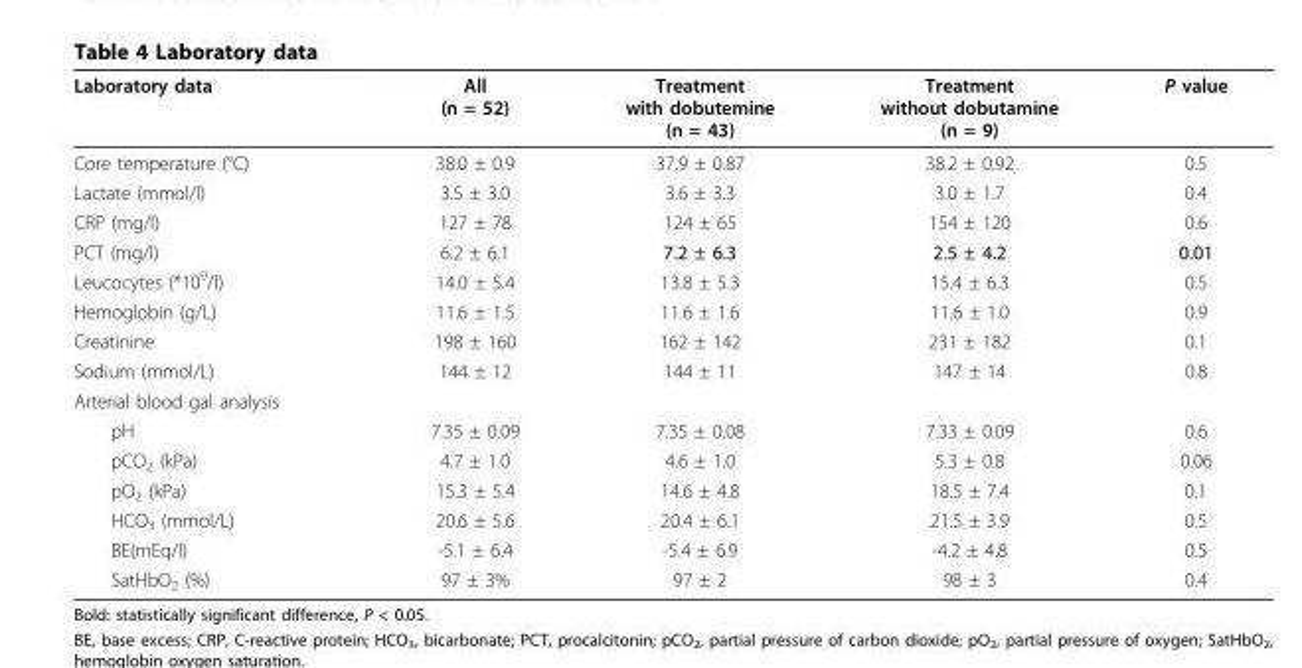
<table><thead><tr><td>Laboratory data</td><td>All (n = 52)</td><td>Treatment with dobutemine (n = 43)</td><td>Treatment without dobutamine (n = 9)</td><td>P value</td></tr></thead><tbody><tr><td>Core temperature (°C)</td><td>38.0 ± 0.9</td><td>37.9 ± 0.87</td><td>38.2 ± 0.92</td><td>0.5</td></tr><tr><td>Lactate (mmol/l)</td><td>3.5 ± 3.0</td><td>3.6 ± 3.3</td><td>3.0 ± 1.7</td><td>0.4</td></tr><tr><td>CRP (mg/l)</td><td>127 ± 78</td><td>124 ± 65</td><td>154 ± 120</td><td>0.6</td></tr><tr><td>PCT (mg/l)</td><td>6.2 ± 6.1</td><td>7.2 ± 6.3</td><td>2.5 ± 4.2</td><td>0.01</td></tr><tr><td>Leucocytes (*10<sup>9</sup>/l)</td><td>14.0 ± 5.4</td><td>13.8 ± 5.3</td><td>15.4 ± 6.3</td><td>0.5</td></tr><tr><td>Hemoglobin (g/L)</td><td>11.6 ± 1.5</td><td>11.6 ± 1.6</td><td>11.6 ± 1.0</td><td>0.9</td></tr><tr><td>Creatinine</td><td>198 ± 160</td><td>162 ± 142</td><td>231 ± 182</td><td>0.1</td></tr><tr><td>Sodium (mmol/L)</td><td>144 ± 12</td><td>144 ± 11</td><td>147 ± 14</td><td>0.8</td></tr><tr><td colspan="5">Arterial blood gal analysis</td></tr><tr><td>pH</td><td>7.35 ± 0.09</td><td>7.35 ± 0.08</td><td>7.33 ± 0.09</td><td>0.6</td></tr><tr><td>pCO<sub>2</sub> (kPa)</td><td>4.7 ± 1.0</td><td>4.6 ± 1.0</td><td>5.3 ± 0.8</td><td>0.06</td></tr><tr><td>pO<sub>2</sub> (kPa)</td><td>15.3 ± 5.4</td><td>14.6 ± 4.8</td><td>18.5 ± 7.4</td><td>0.1</td></tr><tr><td>HCO<sub>3</sub> (mmol/L)</td><td>20.6 ± 5.6</td><td>20.4 ± 6.1</td><td>21.5 ± 3.9</td><td>0.5</td></tr><tr><td>BE(mEq/l)</td><td>-5.1 ± 6.4</td><td>-5.4 ± 6.9</td><td>-4.2 ± 4.8</td><td>0.5</td></tr><tr><td>SatHbO<sub>2</sub> (%)</td><td>97 ± 3%</td><td>97 ± 2</td><td>98 ± 3</td><td>0.4</td></tr></tbody></table>